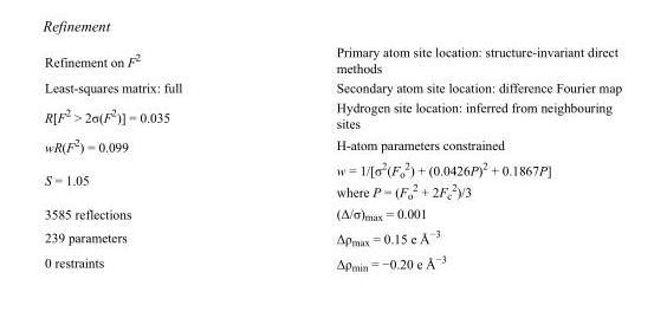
<table><tbody><tr><td>Refinement on F<sup>2</sup></td><td>Primary atom site location: structure-invariant direct methods</td></tr><tr><td>Least-squares matrix: full</td><td>Secondary atom site location: difference Fourier map</td></tr><tr><td>R[F<sup>2</sup> &gt; 2σ(F<sup>2</sup>)] = 0.035</td><td>Hydrogen site location: inferred from neighbouring sites</td></tr><tr><td>wR(F<sup>2</sup>) = 0.099</td><td>H-atom parameters constrained</td></tr><tr><td>S = 1.05</td><td>w = 1/[σ<sup>2</sup>(F<sub>o</sub> <sup>2</sup>) + (0.0426P)<sup>2</sup> + 0.1867P] where P = (F<sub>o</sub> <sup>2</sup> + 2F<sub>c</sub> <sup>2</sup>)/3</td></tr><tr><td>3585 reflections</td><td>(Δ/σ)<sub>max</sub> = 0.001</td></tr><tr><td>239 parameters</td><td>Δρ<sub>max</sub> = 0.15 e Å<sup>−3</sup></td></tr><tr><td>0 restraints</td><td>Δρ<sub>min</sub> = −0.20 e Å<sup>−3</sup></td></tr></tbody></table>